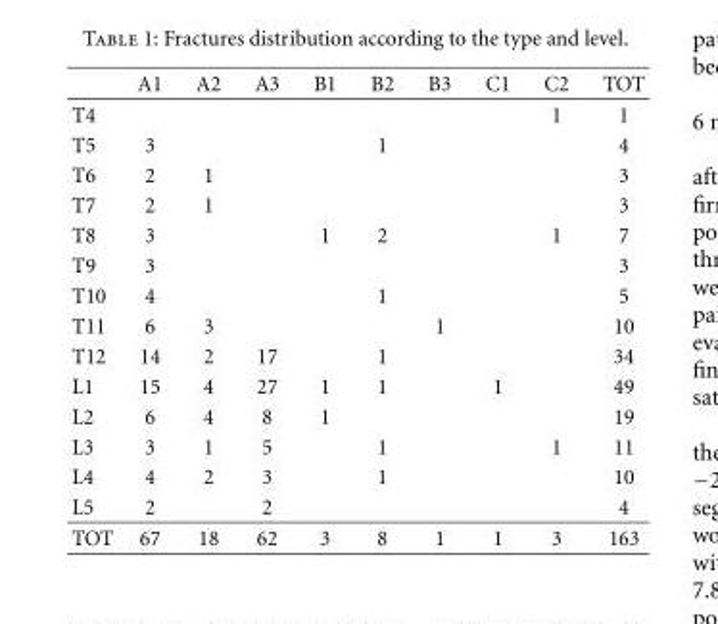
<table><thead><tr><td></td><td>A1</td><td>A2</td><td>A3</td><td>B1</td><td>B2</td><td>B3</td><td>C1</td><td>C2</td><td>TOT</td></tr></thead><tbody><tr><td>T4</td><td></td><td></td><td></td><td></td><td></td><td></td><td></td><td>1</td><td>1</td></tr><tr><td>T5</td><td>3</td><td></td><td></td><td></td><td>1</td><td></td><td></td><td></td><td>4</td></tr><tr><td>T6</td><td>2</td><td>1</td><td></td><td></td><td></td><td></td><td></td><td></td><td>3</td></tr><tr><td>T7</td><td>2</td><td>1</td><td></td><td></td><td></td><td></td><td></td><td></td><td>3</td></tr><tr><td>T8</td><td>3</td><td></td><td></td><td>1</td><td>2</td><td></td><td></td><td>1</td><td>7</td></tr><tr><td>T9</td><td>3</td><td></td><td></td><td></td><td></td><td></td><td></td><td></td><td>3</td></tr><tr><td>T10</td><td>4</td><td></td><td></td><td></td><td>1</td><td></td><td></td><td></td><td>5</td></tr><tr><td>T11</td><td>6</td><td>3</td><td></td><td></td><td></td><td>1</td><td></td><td></td><td>10</td></tr><tr><td>T12</td><td>14</td><td>2</td><td>17</td><td></td><td>1</td><td></td><td></td><td></td><td>34</td></tr><tr><td>L1</td><td>15</td><td>4</td><td>27</td><td>1</td><td>1</td><td></td><td>1</td><td></td><td>49</td></tr><tr><td>L2</td><td>6</td><td>4</td><td>8</td><td>1</td><td></td><td></td><td></td><td></td><td>19</td></tr><tr><td>L3</td><td>3</td><td>1</td><td>5</td><td></td><td>1</td><td></td><td></td><td>1</td><td>11</td></tr><tr><td>L4</td><td>4</td><td>2</td><td>3</td><td></td><td>1</td><td></td><td></td><td></td><td>10</td></tr><tr><td>L5</td><td>2</td><td></td><td>2</td><td></td><td></td><td></td><td></td><td></td><td>4</td></tr><tr><td>TOT</td><td>67</td><td>18</td><td>62</td><td>3</td><td>8</td><td>1</td><td>1</td><td>3</td><td>163</td></tr></tbody></table>